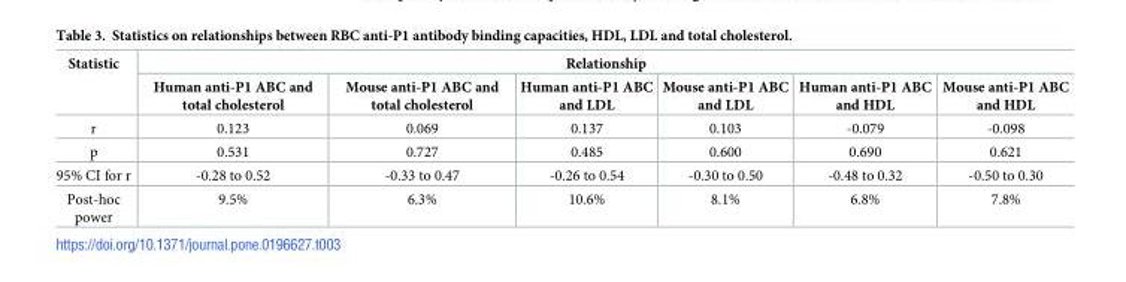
<table><thead><tr><td rowspan="2">Statistic</td><td colspan="6">Relationship</td></tr><tr><td>Human anti-P1 ABC and total cholesterol</td><td>Mouse anti-P1 ABC and total cholesterol</td><td>Human anti-P1 ABC and LDL</td><td>Mouse anti-P1 ABC and LDL</td><td>Human anti-P1 ABC and HDL</td><td>Mouse anti-P1 ABC and HDL</td></tr></thead><tbody><tr><td>r</td><td>0.123</td><td>0.069</td><td>0.137</td><td>0.103</td><td>-0.079</td><td>-0.098</td></tr><tr><td>p</td><td>0.531</td><td>0.727</td><td>0.485</td><td>0.600</td><td>0.690</td><td>0.621</td></tr><tr><td>95% CI for r</td><td>-0.28 to 0.52</td><td>-0.33 to 0.47</td><td>-0.26 to 0.54</td><td>-0.30 to 0.50</td><td>-0.48 to 0.32</td><td>-0.50 to 0.30</td></tr><tr><td>Post-hoc power</td><td>9.5%</td><td>6.3%</td><td>10.6%</td><td>8.1%</td><td>6.8%</td><td>7.8%</td></tr></tbody></table>